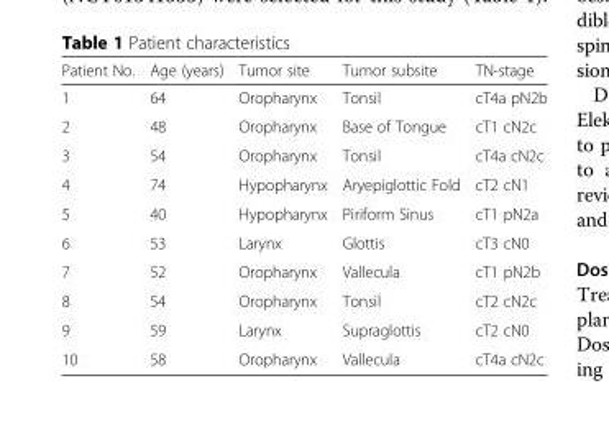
<table><thead><tr><td>Patient No.</td><td>Age (years)</td><td>Tumor site</td><td>Tumor subsite</td><td>TN-stage</td></tr></thead><tbody><tr><td>1</td><td>64</td><td>Oropharynx</td><td>Tonsil</td><td>cT4a pN2b</td></tr><tr><td>2</td><td>48</td><td>Oropharynx</td><td>Base of Tongue</td><td>cT1 cN2c</td></tr><tr><td>3</td><td>54</td><td>Oropharynx</td><td>Tonsil</td><td>cT4a cN2c</td></tr><tr><td>4</td><td>74</td><td>Hypopharynx</td><td>Aryepiglottic Fold</td><td>cT2 cN1</td></tr><tr><td>5</td><td>40</td><td>Hypopharynx</td><td>Piriform Sinus</td><td>cT1 pN2a</td></tr><tr><td>6</td><td>53</td><td>Larynx</td><td>Glottis</td><td>cT3 cN0</td></tr><tr><td>7</td><td>52</td><td>Oropharynx</td><td>Vallecula</td><td>cT1 pN2b</td></tr><tr><td>8</td><td>54</td><td>Oropharynx</td><td>Tonsil</td><td>cT2 cN2c</td></tr><tr><td>9</td><td>59</td><td>Larynx</td><td>Supraglottis</td><td>cT2 cN0</td></tr><tr><td>10</td><td>58</td><td>Oropharynx</td><td>Vallecula</td><td>cT4a cN2c</td></tr></tbody></table>